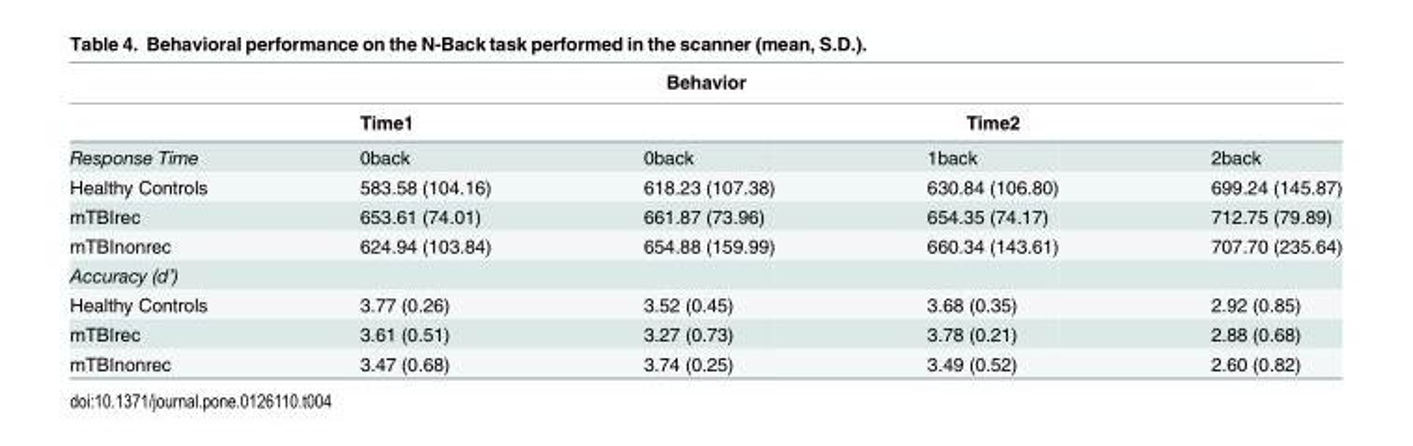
<table><thead><tr><td colspan="5">Behavior</td></tr><tr><td rowspan="2">Response Time</td><td rowspan="2">Time1 0back</td><td colspan="3">Time2</td></tr><tr><td>0back</td><td>1back</td><td>2back</td></tr></thead><tbody><tr><td>Healthy Controls</td><td>583.58 (104.16)</td><td>618.23 (107.38)</td><td>630.84 (106.80)</td><td>699.24 (145.87)</td></tr><tr><td>mTBIrec</td><td>653.61 (74.01)</td><td>661.87 (73.96)</td><td>654.35 (74.17)</td><td>712.75 (79.89)</td></tr><tr><td>mTBInonrec</td><td>624.94 (103.84)</td><td>654.88 (159.99)</td><td>660.34 (143.61)</td><td>707.70 (235.64)</td></tr><tr><td colspan="5">Accuracy (d’)</td></tr><tr><td>Healthy Controls</td><td>3.77 (0.26)</td><td>3.52 (0.45)</td><td>3.68 (0.35)</td><td>2.92 (0.85)</td></tr><tr><td>mTBIrec</td><td>3.61 (0.51)</td><td>3.27 (0.73)</td><td>3.78 (0.21)</td><td>2.88 (0.68)</td></tr><tr><td>mTBInonrec</td><td>3.47 (0.68)</td><td>3.74 (0.25)</td><td>3.49 (0.52)</td><td>2.60 (0.82)</td></tr></tbody></table>